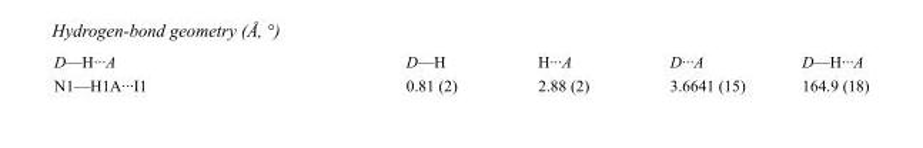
<table><tbody><tr><td>D—H···A</td><td>D—H</td><td>H···A</td><td>D···A</td><td>D—H···A</td></tr><tr><td>N1—H1A···I1</td><td>0.81 (2)</td><td>2.88 (2)</td><td>3.6641 (15)</td><td>164.9 (18)</td></tr></tbody></table>